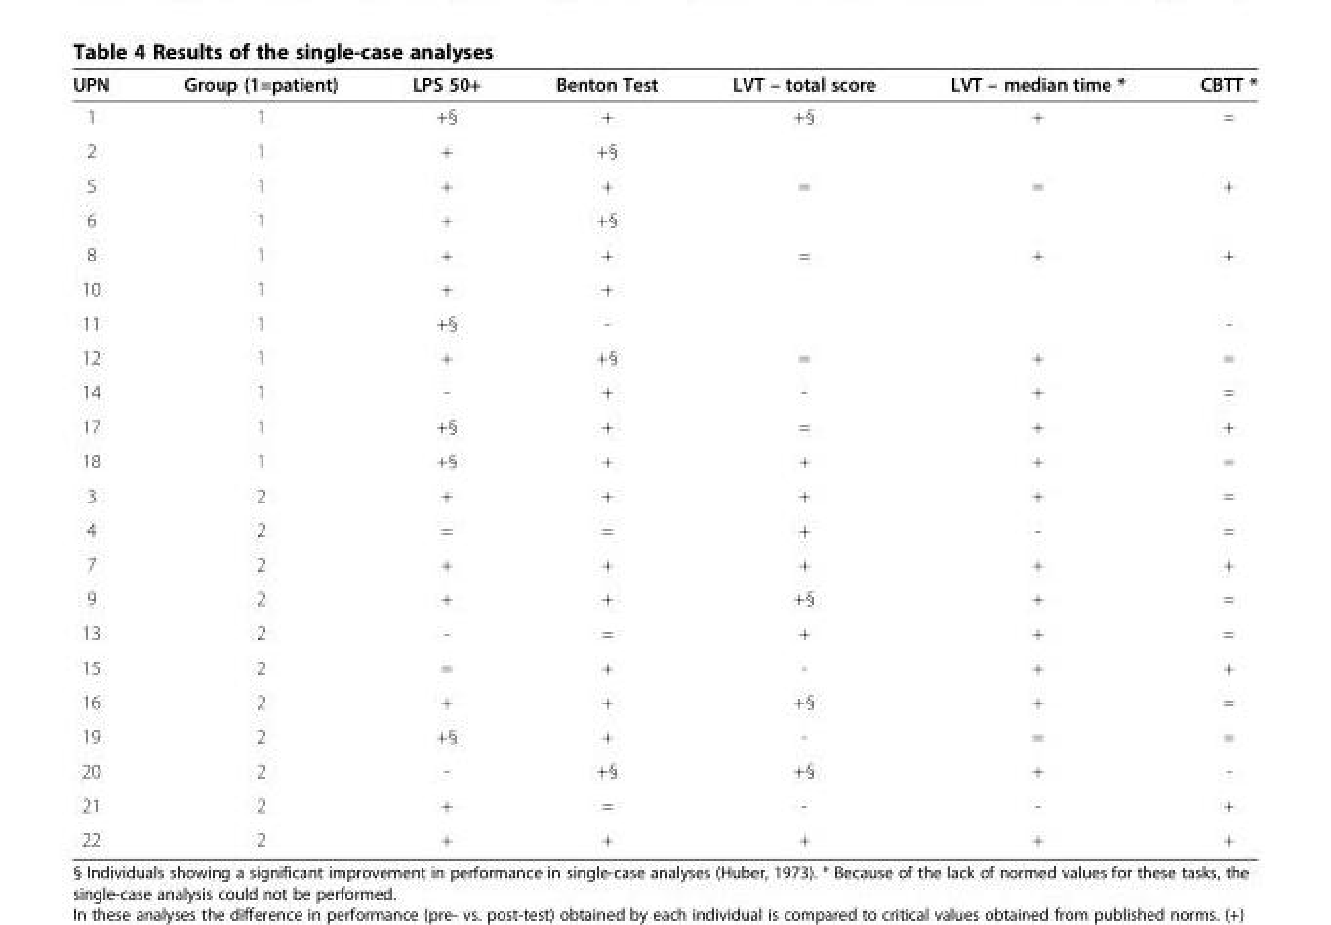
<table><thead><tr><td>UPN</td><td>Group (1=patient)</td><td>LPS 50+</td><td>Benton Test</td><td>LVT – total score</td><td>LVT – median time *</td><td>CBTT *</td></tr></thead><tbody><tr><td>1</td><td>1</td><td>+§</td><td>+</td><td>+§</td><td>+</td><td>=</td></tr><tr><td>2</td><td>1</td><td>+</td><td>+§</td><td></td><td></td><td></td></tr><tr><td>5</td><td>1</td><td>+</td><td>+</td><td>=</td><td>=</td><td>+</td></tr><tr><td>6</td><td>1</td><td>+</td><td>+§</td><td></td><td></td><td></td></tr><tr><td>8</td><td>1</td><td>+</td><td>+</td><td>=</td><td>+</td><td>+</td></tr><tr><td>10</td><td>1</td><td>+</td><td>+</td><td></td><td></td><td></td></tr><tr><td>11</td><td>1</td><td>+§</td><td>-</td><td></td><td></td><td>-</td></tr><tr><td>12</td><td>1</td><td>+</td><td>+§</td><td>=</td><td>+</td><td>=</td></tr><tr><td>14</td><td>1</td><td>-</td><td>+</td><td>-</td><td>+</td><td>=</td></tr><tr><td>17</td><td>1</td><td>+§</td><td>+</td><td>=</td><td>+</td><td>+</td></tr><tr><td>18</td><td>1</td><td>+§</td><td>+</td><td>+</td><td>+</td><td>=</td></tr><tr><td>3</td><td>2</td><td>+</td><td>+</td><td>+</td><td>+</td><td>=</td></tr><tr><td>4</td><td>2</td><td>=</td><td>=</td><td>+</td><td>-</td><td>=</td></tr><tr><td>7</td><td>2</td><td>+</td><td>+</td><td>+</td><td>+</td><td>+</td></tr><tr><td>9</td><td>2</td><td>+</td><td>+</td><td>+§</td><td>+</td><td>=</td></tr><tr><td>13</td><td>2</td><td>-</td><td>=</td><td>+</td><td>+</td><td>=</td></tr><tr><td>15</td><td>2</td><td>=</td><td>+</td><td>-</td><td>+</td><td>+</td></tr><tr><td>16</td><td>2</td><td>+</td><td>+</td><td>+§</td><td>+</td><td>=</td></tr><tr><td>19</td><td>2</td><td>+§</td><td>+</td><td>-</td><td>=</td><td>=</td></tr><tr><td>20</td><td>2</td><td>-</td><td>+§</td><td>+§</td><td>+</td><td>-</td></tr><tr><td>21</td><td>2</td><td>+</td><td>=</td><td>-</td><td>-</td><td>+</td></tr><tr><td>22</td><td>2</td><td>+</td><td>+</td><td>+</td><td>+</td><td>+</td></tr></tbody></table>